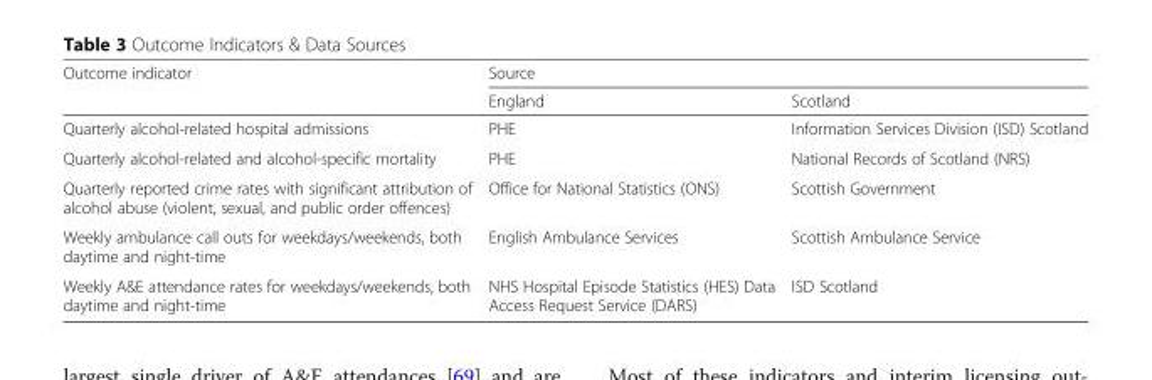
<table><thead><tr><td rowspan="2">Outcome indicator</td><td colspan="2">Source</td></tr><tr><td>England</td><td>Scotland</td></tr></thead><tbody><tr><td>Quarterly alcohol-related hospital admissions</td><td>PHE</td><td>Information Services Division (ISD) Scotland</td></tr><tr><td>Quarterly alcohol-related and alcohol-specific mortality</td><td>PHE</td><td>National Records of Scotland (NRS)</td></tr><tr><td>Quarterly reported crime rates with significant attribution of alcohol abuse (violent, sexual, and public order offences)</td><td>Office for National Statistics (ONS)</td><td>Scottish Government</td></tr><tr><td>Weekly ambulance call outs for weekdays/weekends, both daytime and night-time</td><td>English Ambulance Services</td><td>Scottish Ambulance Service</td></tr><tr><td>Weekly A&amp;E attendance rates for weekdays/weekends, both daytime and night-time</td><td>NHS Hospital Episode Statistics (HES) Data Access Request Service (DARS)</td><td>ISD Scotland</td></tr></tbody></table>